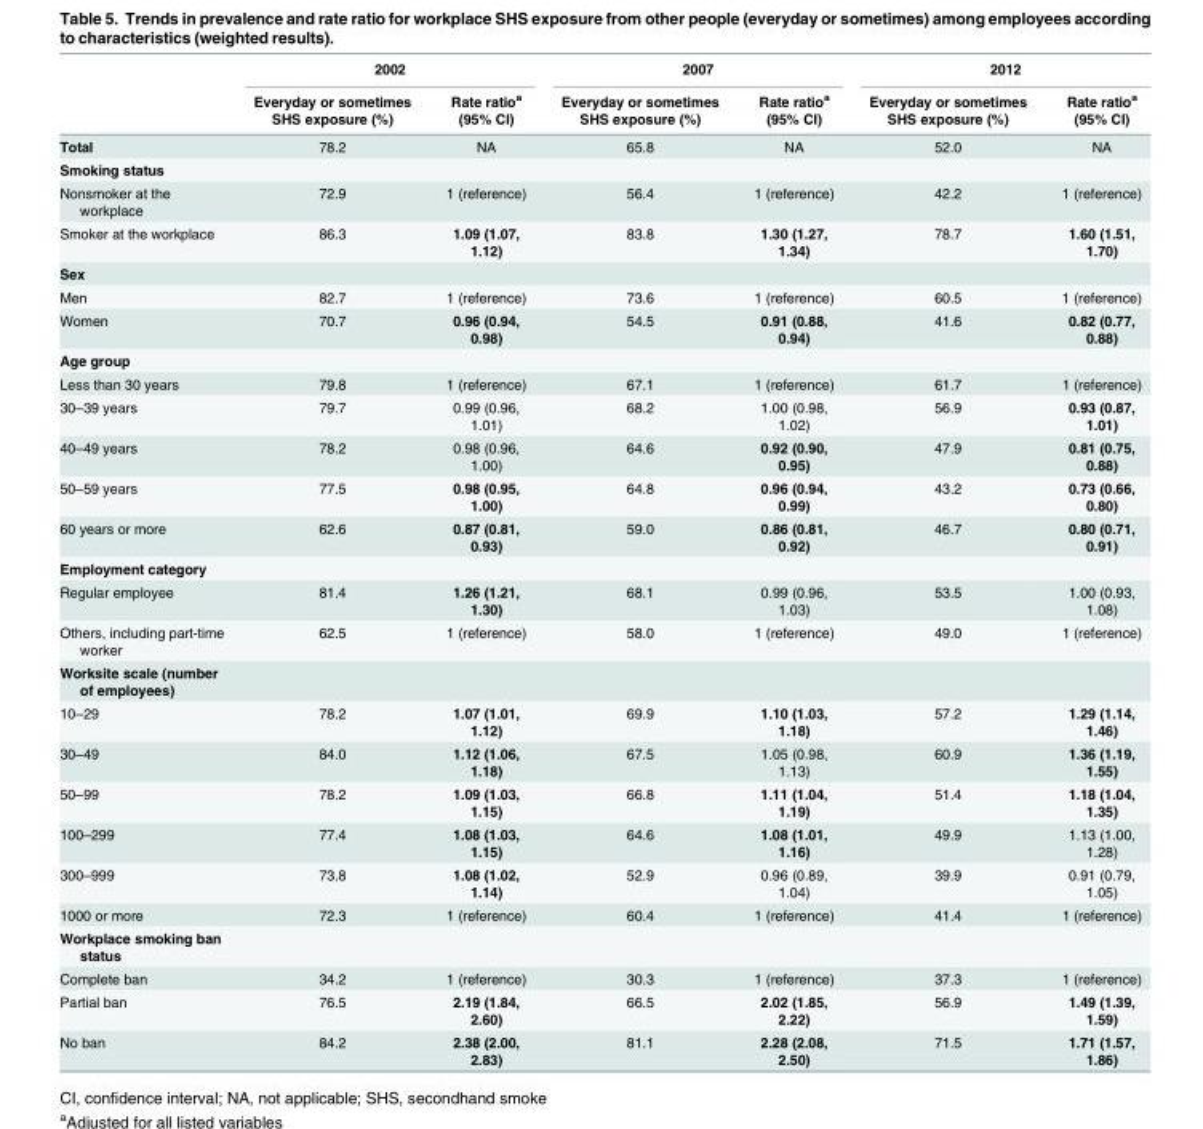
<table><thead><tr><td rowspan="2"></td><td colspan="2">2002</td><td colspan="2">2007</td><td colspan="2">2012</td></tr><tr><td>Everyday or sometimes SHS exposure (%)</td><td>Rate ratio<sup>a</sup> (95% CI)</td><td>Everyday or sometimes SHS exposure (%)</td><td>Rate ratio<sup>a</sup> (95% CI)</td><td>Everyday or sometimes SHS exposure (%)</td><td>Rate ratio<sup>a</sup> (95% CI)</td></tr></thead><tbody><tr><td>Total</td><td>78.2</td><td>NA</td><td>65.8</td><td>NA</td><td>52.0</td><td>NA</td></tr><tr><td colspan="7">Smoking status</td></tr><tr><td>Nonsmoker at the workplace</td><td>72.9</td><td>1 (reference)</td><td>56.4</td><td>1 (reference)</td><td>42.2</td><td>1 (reference)</td></tr><tr><td>Smoker at the workplace</td><td>86.3</td><td>1.09 (1.07, 1.12)</td><td>83.8</td><td>1.30 (1.27, 1.34)</td><td>78.7</td><td>1.60 (1.51, 1.70)</td></tr><tr><td colspan="7">Sex</td></tr><tr><td>Men</td><td>82.7</td><td>1 (reference)</td><td>73.6</td><td>1 (reference)</td><td>60.5</td><td>1 (reference)</td></tr><tr><td>Women</td><td>70.7</td><td>0.96 (0.94, 0.98)</td><td>54.5</td><td>0.91 (0.88, 0.94)</td><td>41.6</td><td>0.82 (0.77, 0.88)</td></tr><tr><td colspan="7">Age group</td></tr><tr><td>Less than 30 years</td><td>79.8</td><td>1 (reference)</td><td>67.1</td><td>1 (reference)</td><td>61.7</td><td>1 (reference)</td></tr><tr><td>30–39 years</td><td>79.7</td><td>0.99 (0.96, 1.01)</td><td>68.2</td><td>1.00 (0.98, 1.02)</td><td>56.9</td><td>0.93 (0.87, 1.01)</td></tr><tr><td>40–49 years</td><td>78.2</td><td>0.98 (0.96, 1.00)</td><td>64.6</td><td>0.92 (0.90, 0.95)</td><td>47.9</td><td>0.81 (0.75, 0.88)</td></tr><tr><td>50–59 years</td><td>77.5</td><td>0.98 (0.95, 1.00)</td><td>64.8</td><td>0.96 (0.94, 0.99)</td><td>43.2</td><td>0.73 (0.66, 0.80)</td></tr><tr><td>60 years or more</td><td>62.6</td><td>0.87 (0.81, 0.93)</td><td>59.0</td><td>0.86 (0.81, 0.92)</td><td>46.7</td><td>0.80 (0.71, 0.91)</td></tr><tr><td colspan="7">Employment category</td></tr><tr><td>Regular employee</td><td>81.4</td><td>1.26 (1.21, 1.30)</td><td>68.1</td><td>0.99 (0.96, 1.03)</td><td>53.5</td><td>1.00 (0.93, 1.08)</td></tr><tr><td>Others, including part-time worker</td><td>62.5</td><td>1 (reference)</td><td>58.0</td><td>1 (reference)</td><td>49.0</td><td>1 (reference)</td></tr><tr><td colspan="7">Worksite scale (number of employees)</td></tr><tr><td>10–29</td><td>78.2</td><td>1.07 (1.01, 1.12)</td><td>69.9</td><td>1.10 (1.03, 1.18)</td><td>57.2</td><td>1.29 (1.14, 1.46)</td></tr><tr><td>30–49</td><td>84.0</td><td>1.12 (1.06, 1.18)</td><td>67.5</td><td>1.05 (0.98, 1.13)</td><td>60.9</td><td>1.36 (1.19, 1.55)</td></tr><tr><td>50–99</td><td>78.2</td><td>1.09 (1.03, 1.15)</td><td>66.8</td><td>1.11 (1.04, 1.19)</td><td>51.4</td><td>1.18 (1.04, 1.35)</td></tr><tr><td>100–299</td><td>77.4</td><td>1.08 (1.03, 1.15)</td><td>64.6</td><td>1.08 (1.01, 1.16)</td><td>49.9</td><td>1.13 (1.00, 1.28)</td></tr><tr><td>300–999</td><td>73.8</td><td>1.08 (1.02, 1.14)</td><td>52.9</td><td>0.96 (0.89, 1.04)</td><td>39.9</td><td>0.91 (0.79, 1.05)</td></tr><tr><td>1000 or more</td><td>72.3</td><td>1 (reference)</td><td>60.4</td><td>1 (reference)</td><td>41.4</td><td>1 (reference)</td></tr><tr><td colspan="7">Workplace smoking ban status</td></tr><tr><td>Complete ban</td><td>34.2</td><td>1 (reference)</td><td>30.3</td><td>1 (reference)</td><td>37.3</td><td>1 (reference)</td></tr><tr><td>Partial ban</td><td>76.5</td><td>2.19 (1.84, 2.60)</td><td>66.5</td><td>2.02 (1.85, 2.22)</td><td>56.9</td><td>1.49 (1.39, 1.59)</td></tr><tr><td>No ban</td><td>84.2</td><td>2.38 (2.00, 2.83)</td><td>81.1</td><td>2.28 (2.08, 2.50)</td><td>71.5</td><td>1.71 (1.57, 1.86)</td></tr></tbody></table>